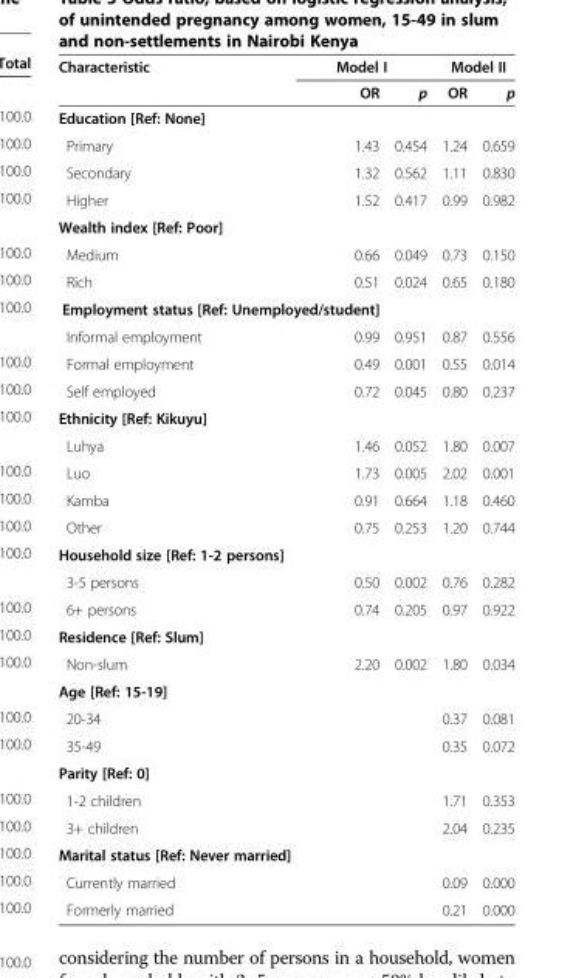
<table><thead><tr><td rowspan="2">Characteristic</td><td colspan="2">Model I</td><td colspan="2">Model II</td></tr><tr><td>OR</td><td>p</td><td>OR</td><td>p</td></tr></thead><tbody><tr><td colspan="5">Education [Ref: None]</td></tr><tr><td>Primary</td><td>1.43</td><td>0.454</td><td>1.24</td><td>0.659</td></tr><tr><td>Secondary</td><td>1.32</td><td>0.562</td><td>1.11</td><td>0.830</td></tr><tr><td>Higher</td><td>1.52</td><td>0.417</td><td>0.99</td><td>0.982</td></tr><tr><td colspan="5">Wealth index [Ref: Poor]</td></tr><tr><td>Medium</td><td>0.66</td><td>0.049</td><td>0.73</td><td>0.150</td></tr><tr><td>Rich</td><td>0.51</td><td>0.024</td><td>0.65</td><td>0.180</td></tr><tr><td colspan="5">Employment status [Ref: Unemployed/student]</td></tr><tr><td>Informal employment</td><td>0.99</td><td>0.951</td><td>0.87</td><td>0.556</td></tr><tr><td>Formal employment</td><td>0.49</td><td>0.001</td><td>0.55</td><td>0.014</td></tr><tr><td>Self employed</td><td>0.72</td><td>0.045</td><td>0.80</td><td>0.237</td></tr><tr><td colspan="5">Ethnicity [Ref: Kikuyu]</td></tr><tr><td>Luhya</td><td>1.46</td><td>0.052</td><td>1.80</td><td>0.007</td></tr><tr><td>Luo</td><td>1.73</td><td>0.005</td><td>2.02</td><td>0.001</td></tr><tr><td>Kamba</td><td>0.91</td><td>0.664</td><td>1.18</td><td>0.460</td></tr><tr><td>Other</td><td>0.75</td><td>0.253</td><td>1.20</td><td>0.744</td></tr><tr><td colspan="5">Household size [Ref: 1-2 persons]</td></tr><tr><td>3-5 persons</td><td>0.50</td><td>0.002</td><td>0.76</td><td>0.282</td></tr><tr><td>6+ persons</td><td>0.74</td><td>0.205</td><td>0.97</td><td>0.922</td></tr><tr><td colspan="5">Residence [Ref: Slum]</td></tr><tr><td>Non-slum</td><td>2.20</td><td>0.002</td><td>1.80</td><td>0.034</td></tr><tr><td colspan="5">Age [Ref: 15-19]</td></tr><tr><td>20-34</td><td></td><td></td><td>0.37</td><td>0.081</td></tr><tr><td>35-49</td><td></td><td></td><td>0.35</td><td>0.072</td></tr><tr><td colspan="5">Parity [Ref: 0]</td></tr><tr><td>1-2 children</td><td></td><td></td><td>1.71</td><td>0.353</td></tr><tr><td>3+ children</td><td></td><td></td><td>2.04</td><td>0.235</td></tr><tr><td colspan="5">Marital status [Ref: Never married]</td></tr><tr><td>Currently married</td><td></td><td></td><td>0.09</td><td>0.000</td></tr><tr><td>Formerly married</td><td></td><td></td><td>0.21</td><td>0.000</td></tr></tbody></table>